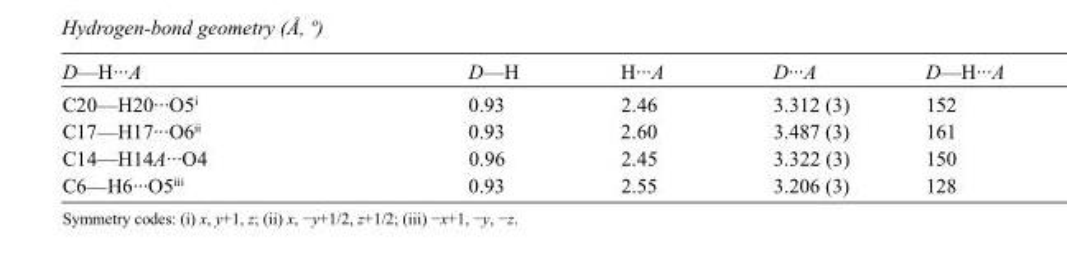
<table><tbody><tr><td>D—H···A</td><td>D—H</td><td>H···A</td><td>D···A</td><td>D—H···A</td></tr><tr><td>C20—H20···O5<sup>i</sup></td><td>0.93</td><td>2.46</td><td>3.312 (3)</td><td>152</td></tr><tr><td>C17—H17···O6<sup>ii</sup></td><td>0.93</td><td>2.60</td><td>3.487 (3)</td><td>161</td></tr><tr><td>C14—H14A···O4</td><td>0.96</td><td>2.45</td><td>3.322 (3)</td><td>150</td></tr><tr><td>C6—H6···O5<sup>iii</sup></td><td>0.93</td><td>2.55</td><td>3.206 (3)</td><td>128</td></tr></tbody></table>